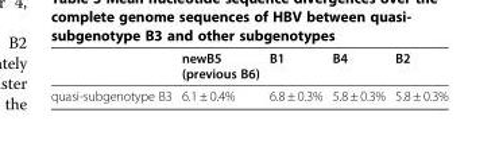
<table><thead><tr><td></td><td>newB5 (previous B6)</td><td>B1</td><td>B4</td><td>B2</td></tr></thead><tbody><tr><td>quasi-subgenotype B3</td><td>6.1 ± 0.4%</td><td>6.8 ± 0.3%</td><td>5.8 ± 0.3%</td><td>5.8 ± 0.3%</td></tr></tbody></table>